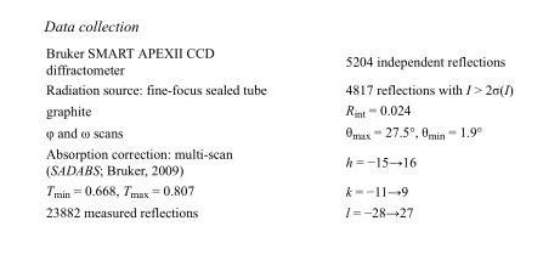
<table><tbody><tr><td>Bruker SMART APEXII CCD diffractometer</td><td>5204 independent reflections</td></tr><tr><td>Radiation source: fine-focus sealed tube</td><td>4817 reflections with I &gt; 2σ(I)</td></tr><tr><td>graphite</td><td>R<sub>int</sub> = 0.024</td></tr><tr><td>φ and ω scans</td><td>θ<sub>max</sub> = 27.5°, θ<sub>min</sub> = 1.9°</td></tr><tr><td>Absorption correction: multi-scan (SADABS; Bruker, 2009)</td><td>h = −15→16</td></tr><tr><td>T<sub>min</sub> = 0.668, T<sub>max</sub> = 0.807</td><td>k = −11→9</td></tr><tr><td>23882 measured reflections</td><td>l = −28→27</td></tr></tbody></table>